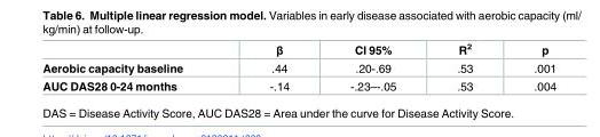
<table><thead><tr><td></td><td>β</td><td>CI 95%</td><td>R<sup>2</sup></td><td>p</td></tr></thead><tbody><tr><td>Aerobic capacity baseline</td><td>.44</td><td>.20-.69</td><td>.53</td><td>.001</td></tr><tr><td>AUC DAS28 0-24 months</td><td>-.14</td><td>-.23–-.05</td><td>.53</td><td>.004</td></tr></tbody></table>